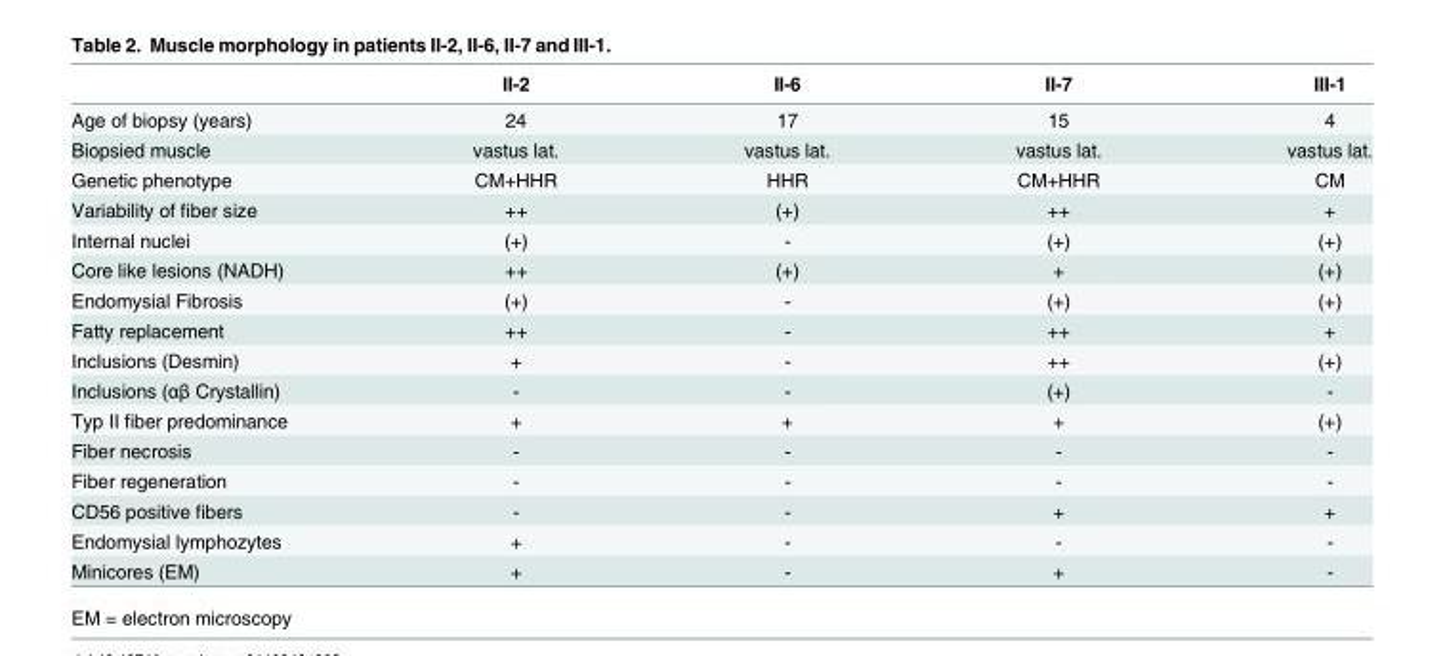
<table><thead><tr><td></td><td>II-2</td><td>II-6</td><td>II-7</td><td>III-1</td></tr></thead><tbody><tr><td>Age of biopsy (years)</td><td>24</td><td>17</td><td>15</td><td>4</td></tr><tr><td>Biopsied muscle</td><td>vastus lat.</td><td>vastus lat.</td><td>vastus lat.</td><td>vastus lat.</td></tr><tr><td>Genetic phenotype</td><td>CM+HHR</td><td>HHR</td><td>CM+HHR</td><td>CM</td></tr><tr><td>Variability of fiber size</td><td>++</td><td>(+)</td><td>++</td><td>+</td></tr><tr><td>Internal nuclei</td><td>(+)</td><td>-</td><td>(+)</td><td>(+)</td></tr><tr><td>Core like lesions (NADH)</td><td>++</td><td>(+)</td><td>+</td><td>(+)</td></tr><tr><td>Endomysial Fibrosis</td><td>(+)</td><td>-</td><td>(+)</td><td>(+)</td></tr><tr><td>Fatty replacement</td><td>++</td><td>-</td><td>++</td><td>+</td></tr><tr><td>Inclusions (Desmin)</td><td>+</td><td>-</td><td>++</td><td>(+)</td></tr><tr><td>Inclusions (αβ Crystallin)</td><td>-</td><td>-</td><td>(+)</td><td>-</td></tr><tr><td>Typ II fiber predominance</td><td>+</td><td>+</td><td>+</td><td>(+)</td></tr><tr><td>Fiber necrosis</td><td>-</td><td>-</td><td>-</td><td>-</td></tr><tr><td>Fiber regeneration</td><td>-</td><td>-</td><td>-</td><td>-</td></tr><tr><td>CD56 positive fibers</td><td>-</td><td>-</td><td>+</td><td>+</td></tr><tr><td>Endomysial lymphozytes</td><td>+</td><td>-</td><td>-</td><td>-</td></tr><tr><td>Minicores (EM)</td><td>+</td><td>-</td><td>+</td><td>-</td></tr></tbody></table>